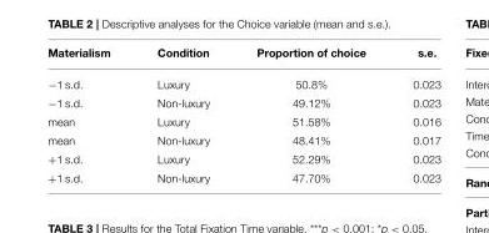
<table><thead><tr><td>Materialism</td><td>Condition</td><td>Proportion of choice</td><td>s.e.</td></tr></thead><tbody><tr><td>−1 s.d.</td><td>Luxury</td><td>50.8%</td><td>0.023</td></tr><tr><td>−1 s.d.</td><td>Non-luxury</td><td>49.12%</td><td>0.023</td></tr><tr><td>mean</td><td>Luxury</td><td>51.58%</td><td>0.016</td></tr><tr><td>mean</td><td>Non-luxury</td><td>48.41%</td><td>0.017</td></tr><tr><td>+1 s.d.</td><td>Luxury</td><td>52.29%</td><td>0.023</td></tr><tr><td>+1 s.d.</td><td>Non-luxury</td><td>47.70%</td><td>0.023</td></tr></tbody></table>